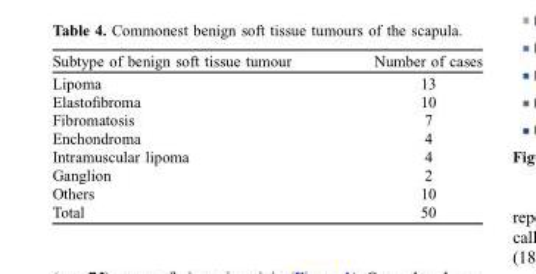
<table><thead><tr><td>Subtype of benign soft tissue tumour</td><td>Number of cases</td></tr></thead><tbody><tr><td>Lipoma</td><td>13</td></tr><tr><td>Elastofibroma</td><td>10</td></tr><tr><td>Fibromatosis</td><td>7</td></tr><tr><td>Enchondroma</td><td>4</td></tr><tr><td>Intramuscular lipoma</td><td>4</td></tr><tr><td>Ganglion</td><td>2</td></tr><tr><td>Others</td><td>10</td></tr><tr><td>Total</td><td>50</td></tr></tbody></table>